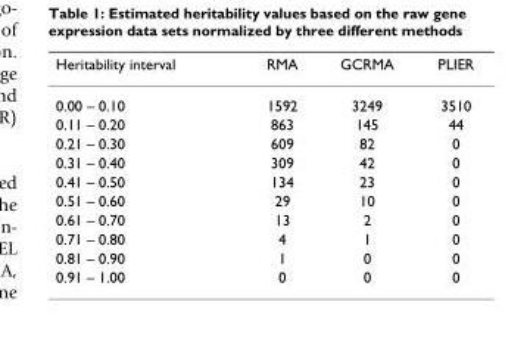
<table><thead><tr><td>Heritability interval</td><td>RMA</td><td>GCRMA</td><td>PLIER</td></tr></thead><tbody><tr><td>0.00 – 0.10</td><td>1592</td><td>3249</td><td>3510</td></tr><tr><td>0.11 – 0.20</td><td>863</td><td>145</td><td>44</td></tr><tr><td>0.21 – 0.30</td><td>609</td><td>82</td><td>0</td></tr><tr><td>0.31 – 0.40</td><td>309</td><td>42</td><td>0</td></tr><tr><td>0.41 – 0.50</td><td>134</td><td>23</td><td>0</td></tr><tr><td>0.51 – 0.60</td><td>29</td><td>10</td><td>0</td></tr><tr><td>0.61 – 0.70</td><td>13</td><td>2</td><td>0</td></tr><tr><td>0.71 – 0.80</td><td>4</td><td>1</td><td>0</td></tr><tr><td>0.81 – 0.90</td><td>1</td><td>0</td><td>0</td></tr><tr><td>0.91 – 1.00</td><td>0</td><td>0</td><td>0</td></tr></tbody></table>